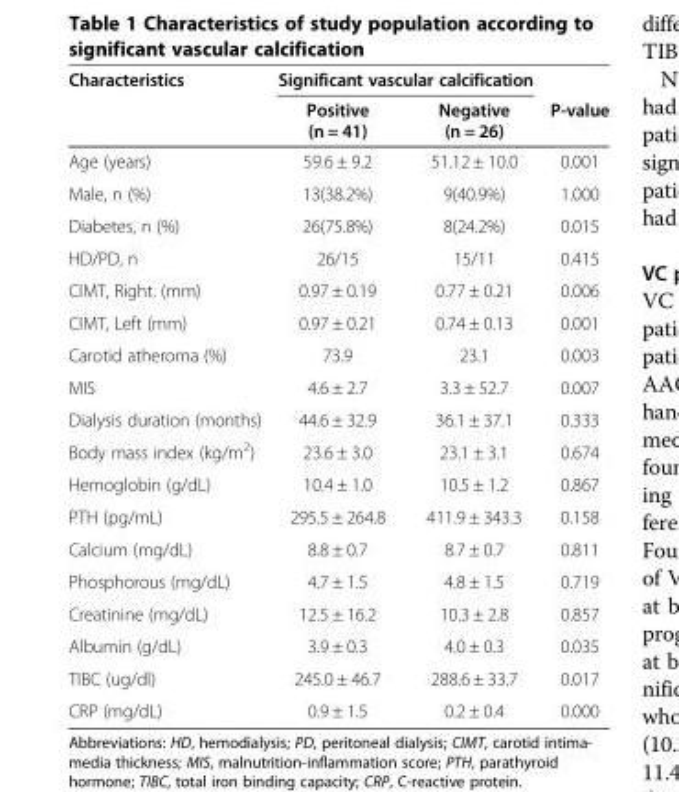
<table><thead><tr><td rowspan="2">Characteristics</td><td colspan="2">Significant vascular calcification</td><td rowspan="2">P-value</td></tr><tr><td>Positive (n = 41)</td><td>Negative (n = 26)</td></tr></thead><tbody><tr><td>Age (years)</td><td>59.6 ± 9.2</td><td>51.12 ± 10.0</td><td>0.001</td></tr><tr><td>Male, n (%)</td><td>13(38.2%)</td><td>9(40.9%)</td><td>1.000</td></tr><tr><td>Diabetes, n (%)</td><td>26(75.8%)</td><td>8(24.2%)</td><td>0.015</td></tr><tr><td>HD/PD, n</td><td>26/15</td><td>15/11</td><td>0.415</td></tr><tr><td>CIMT, Right. (mm)</td><td>0.97 ± 0.19</td><td>0.77 ± 0.21</td><td>0.006</td></tr><tr><td>CIMT, Left (mm)</td><td>0.97 ± 0.21</td><td>0.74 ± 0.13</td><td>0.001</td></tr><tr><td>Carotid atheroma (%)</td><td>73.9</td><td>23.1</td><td>0.003</td></tr><tr><td>MIS</td><td>4.6 ± 2.7</td><td>3.3 ± 52.7</td><td>0.007</td></tr><tr><td>Dialysis duration (months)</td><td>44.6 ± 32.9</td><td>36.1 ± 37.1</td><td>0.333</td></tr><tr><td>Body mass index (kg/m<sup>2</sup>)</td><td>23.6 ± 3.0</td><td>23.1 ± 3.1</td><td>0.674</td></tr><tr><td>Hemoglobin (g/dL)</td><td>10.4 ± 1.0</td><td>10.5 ± 1.2</td><td>0.867</td></tr><tr><td>PTH (pg/mL)</td><td>295.5 ± 264.8</td><td>411.9 ± 343.3</td><td>0.158</td></tr><tr><td>Calcium (mg/dL)</td><td>8.8 ± 0.7</td><td>8.7 ± 0.7</td><td>0.811</td></tr><tr><td>Phosphorous (mg/dL)</td><td>4.7 ± 1.5</td><td>4.8 ± 1.5</td><td>0.719</td></tr><tr><td>Creatinine (mg/dL)</td><td>12.5 ± 16.2</td><td>10.3 ± 2.8</td><td>0.857</td></tr><tr><td>Albumin (g/dL)</td><td>3.9 ± 0.3</td><td>4.0 ± 0.3</td><td>0.035</td></tr><tr><td>TIBC (ug/dl)</td><td>245.0 ± 46.7</td><td>288.6 ± 33.7</td><td>0.017</td></tr><tr><td>CRP (mg/dL)</td><td>0.9 ± 1.5</td><td>0.2 ± 0.4</td><td>0.000</td></tr></tbody></table>